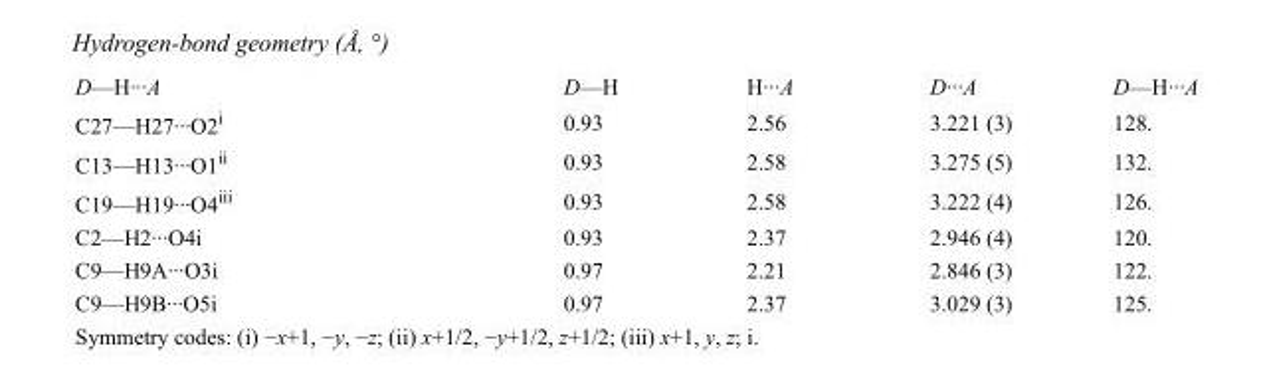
<table><tbody><tr><td>D—H···A</td><td>D—H</td><td>H···A</td><td>D···A</td><td>D—H···A</td></tr><tr><td>C27—H27···O2<sup>i</sup></td><td>0.93</td><td>2.56</td><td>3.221 (3)</td><td>128.</td></tr><tr><td>C13—H13···O1<sup>ii</sup></td><td>0.93</td><td>2.58</td><td>3.275 (5)</td><td>132.</td></tr><tr><td>C19—H19···O4<sup>iii</sup></td><td>0.93</td><td>2.58</td><td>3.222 (4)</td><td>126.</td></tr><tr><td>C2—H2···O4i</td><td>0.93</td><td>2.37</td><td>2.946 (4)</td><td>120.</td></tr><tr><td>C9—H9A···O3i</td><td>0.97</td><td>2.21</td><td>2.846 (3)</td><td>122.</td></tr><tr><td>C9—H9B···O5i</td><td>0.97</td><td>2.37</td><td>3.029 (3)</td><td>125.</td></tr></tbody></table>